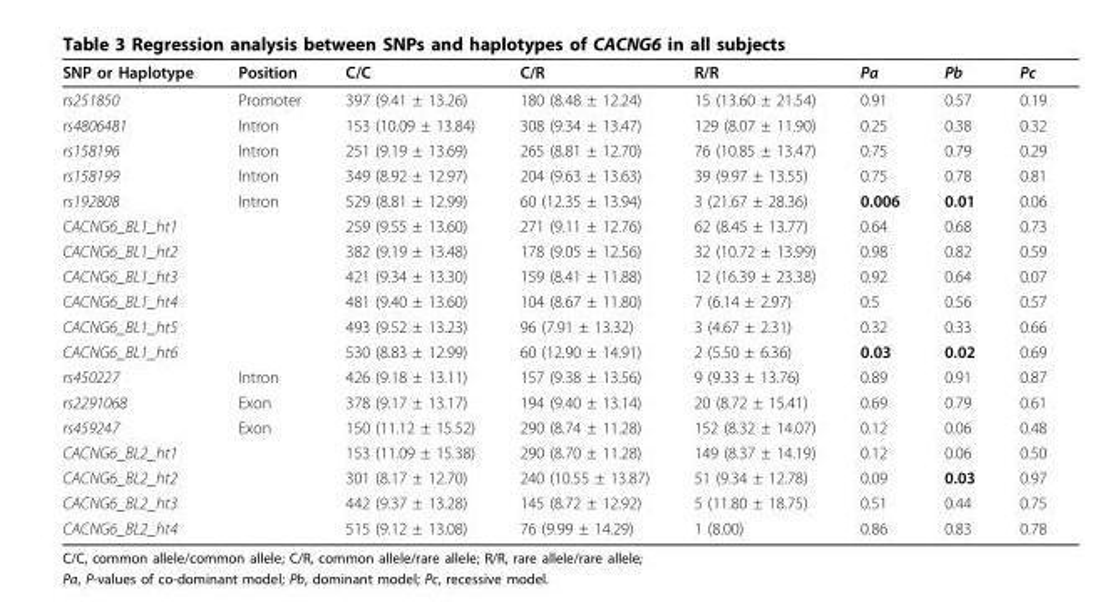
<table><thead><tr><td>SNP or Haplotype</td><td>Position</td><td>C/C</td><td>C/R</td><td>R/R</td><td>Pa</td><td>Pb</td><td>Pc</td></tr></thead><tbody><tr><td>rs251850</td><td>Promoter</td><td>397 (9.41 ± 13.26)</td><td>180 (8.48 ± 12.24)</td><td>15 (13.60 ± 21.54)</td><td>0.91</td><td>0.57</td><td>0.19</td></tr><tr><td>rs4806481</td><td>Intron</td><td>153 (10.09 ± 13.84)</td><td>308 (9.34 ± 13.47)</td><td>129 (8.07 ± 11.90)</td><td>0.25</td><td>0.38</td><td>0.32</td></tr><tr><td>rs158196</td><td>Intron</td><td>251 (9.19 ± 13.69)</td><td>265 (8.81 ± 12.70)</td><td>76 (10.85 ± 13.47)</td><td>0.75</td><td>0.79</td><td>0.29</td></tr><tr><td>rs158199</td><td>Intron</td><td>349 (8.92 ± 12.97)</td><td>204 (9.63 ± 13.63)</td><td>39 (9.97 ± 13.55)</td><td>0.75</td><td>0.78</td><td>0.81</td></tr><tr><td>rs192808</td><td>Intron</td><td>529 (8.81 ± 12.99)</td><td>60 (12.35 ± 13.94)</td><td>3 (21.67 ± 28.36)</td><td>0.006</td><td>0.01</td><td>0.06</td></tr><tr><td>CACNG6_BL1_ht1</td><td></td><td>259 (9.55 ± 13.60)</td><td>271 (9.11 ± 12.76)</td><td>62 (8.45 ± 13.77)</td><td>0.64</td><td>0.68</td><td>0.73</td></tr><tr><td>CACNG6_BL1_ht2</td><td></td><td>382 (9.19 ± 13.48)</td><td>178 (9.05 ± 12.56)</td><td>32 (10.72 ± 13.99)</td><td>0.98</td><td>0.82</td><td>0.59</td></tr><tr><td>CACNG6_BL1_ht3</td><td></td><td>421 (9.34 ± 13.30)</td><td>159 (8.41 ± 11.88)</td><td>12 (16.39 ± 23.38)</td><td>0.92</td><td>0.64</td><td>0.07</td></tr><tr><td>CACNG6_BL1_ht4</td><td></td><td>481 (9.40 ± 13.60)</td><td>104 (8.67 ± 11.80)</td><td>7 (6.14 ± 2.97)</td><td>0.5</td><td>0.56</td><td>0.57</td></tr><tr><td>CACNG6_BL1_ht5</td><td></td><td>493 (9.52 ± 13.23)</td><td>96 (7.91 ± 13.32)</td><td>3 (4.67 ± 2.31)</td><td>0.32</td><td>0.33</td><td>0.66</td></tr><tr><td>CACNG6_BL1_ht6</td><td></td><td>530 (8.83 ± 12.99)</td><td>60 (12.90 ± 14.91)</td><td>2 (5.50 ± 6.36)</td><td>0.03</td><td>0.02</td><td>0.69</td></tr><tr><td>rs450227</td><td>Intron</td><td>426 (9.18 ± 13.11)</td><td>157 (9.38 ± 13.56)</td><td>9 (9.33 ± 13.76)</td><td>0.89</td><td>0.91</td><td>0.87</td></tr><tr><td>rs2291068</td><td>Exon</td><td>378 (9.17 ± 13.17)</td><td>194 (9.40 ± 13.14)</td><td>20 (8.72 ± 15.41)</td><td>0.69</td><td>0.79</td><td>0.61</td></tr><tr><td>rs459247</td><td>Exon</td><td>150 (11.12 ± 15.52)</td><td>290 (8.74 ± 11.28)</td><td>152 (8.32 ± 14.07)</td><td>0.12</td><td>0.06</td><td>0.48</td></tr><tr><td>CACNG6_BL2_ht1</td><td></td><td>153 (11.09 ± 15.38)</td><td>290 (8.70 ± 11.28)</td><td>149 (8.37 ± 14.19)</td><td>0.12</td><td>0.06</td><td>0.50</td></tr><tr><td>CACNG6_BL2_ht2</td><td></td><td>301 (8.17 ± 12.70)</td><td>240 (10.55 ± 13.87)</td><td>51 (9.34 ± 12.78)</td><td>0.09</td><td>0.03</td><td>0.97</td></tr><tr><td>CACNG6_BL2_ht3</td><td></td><td>442 (9.37 ± 13.28)</td><td>145 (8.72 ± 12.92)</td><td>5 (11.80 ± 18.75)</td><td>0.51</td><td>0.44</td><td>0.75</td></tr><tr><td>CACNG6_BL2_ht4</td><td></td><td>515 (9.12 ± 13.08)</td><td>76 (9.99 ± 14.29)</td><td>1 (8.00)</td><td>0.86</td><td>0.83</td><td>0.78</td></tr></tbody></table>